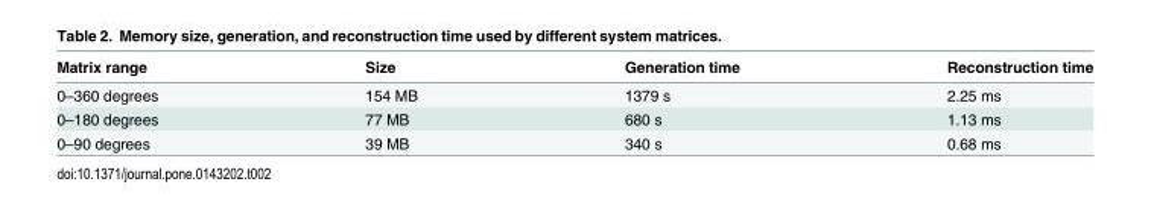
<table><thead><tr><td>Matrix range</td><td>Size</td><td>Generation time</td><td>Reconstruction time</td></tr></thead><tbody><tr><td>0–360 degrees</td><td>154 MB</td><td>1379 s</td><td>2.25 ms</td></tr><tr><td>0–180 degrees</td><td>77 MB</td><td>680 s</td><td>1.13 ms</td></tr><tr><td>0–90 degrees</td><td>39 MB</td><td>340 s</td><td>0.68 ms</td></tr></tbody></table>